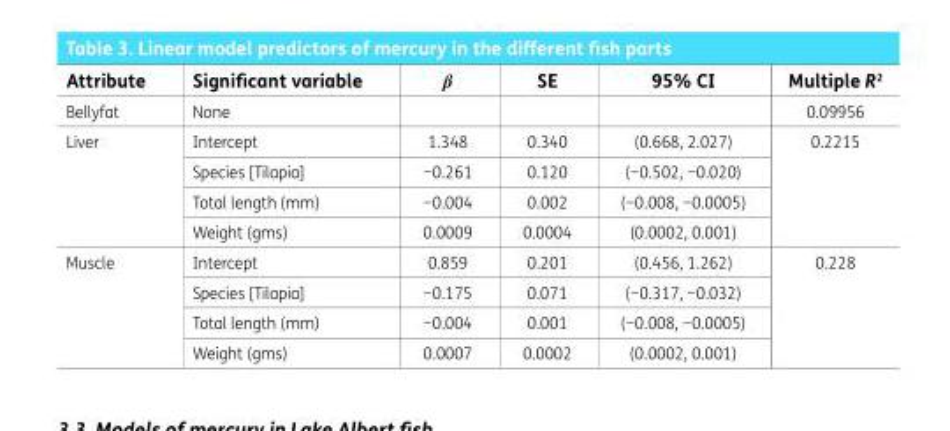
<table><thead><tr><td>Attribute</td><td>Significant variable</td><td>β</td><td>SE</td><td>95% CI</td><td>Multiple R<sup>2</sup></td></tr></thead><tbody><tr><td>Bellyfat</td><td>None</td><td></td><td></td><td></td><td>0.09956</td></tr><tr><td rowspan="4">Liver</td><td>Intercept</td><td>1.348</td><td>0.340</td><td>(0.668, 2.027)</td><td rowspan="4">0.2215</td></tr><tr><td>Species [Tilapia]</td><td>−0.261</td><td>0.120</td><td>(−0.502, −0.020)</td></tr><tr><td>Total length (mm)</td><td>−0.004</td><td>0.002</td><td>(−0.008, −0.0005)</td></tr><tr><td>Weight (gms)</td><td>0.0009</td><td>0.0004</td><td>(0.0002, 0.001)</td></tr><tr><td rowspan="4">Muscle</td><td>Intercept</td><td>0.859</td><td>0.201</td><td>(0.456, 1.262)</td><td rowspan="4">0.228</td></tr><tr><td>Species [Tilapia]</td><td>−0.175</td><td>0.071</td><td>(−0.317, −0.032)</td></tr><tr><td>Total length (mm)</td><td>−0.004</td><td>0.001</td><td>(−0.008, −0.0005)</td></tr><tr><td>Weight (gms)</td><td>0.0007</td><td>0.0002</td><td>(0.0002, 0.001)</td></tr></tbody></table>